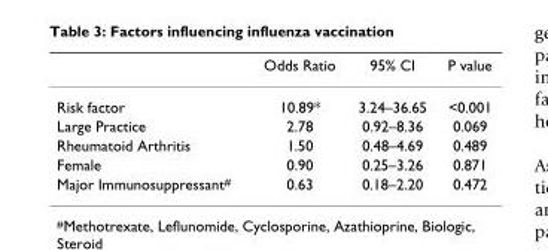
<table><thead><tr><td></td><td>Odds Ratio</td><td>95% CI</td><td>P value</td></tr></thead><tbody><tr><td>Risk factor</td><td>10.89*</td><td>3.24–36.65</td><td>&lt;0.001</td></tr><tr><td>Large Practice</td><td>2.78</td><td>0.92–8.36</td><td>0.069</td></tr><tr><td>Rheumatoid Arthritis</td><td>1.50</td><td>0.48–4.69</td><td>0.489</td></tr><tr><td>Female</td><td>0.90</td><td>0.25–3.26</td><td>0.871</td></tr><tr><td>Major Immunosuppressant<sup>#</sup></td><td>0.63</td><td>0.18–2.20</td><td>0.472</td></tr></tbody></table>